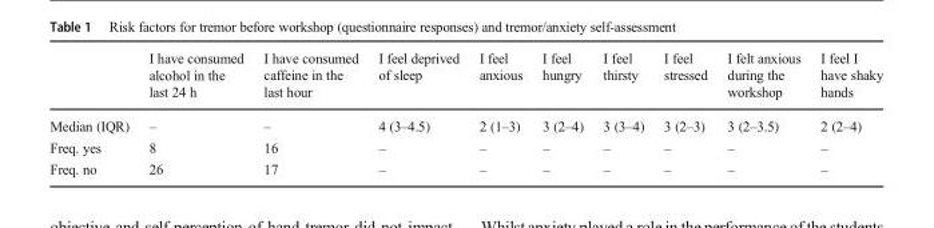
<table><thead><tr><td></td><td>I have consumed alcohol in the last 24 h</td><td>I have consumed caffeine in the last hour</td><td>I feel deprived of sleep</td><td>I feel anxious</td><td>I feel hungry</td><td>I feel thirsty</td><td>I feel stressed</td><td>I felt anxious during the workshop</td><td>I feel I have shaky hands</td></tr></thead><tbody><tr><td>Median (IQR)</td><td>–</td><td>–</td><td>4 (3–4.5)</td><td>2 (1–3)</td><td>3 (2–4)</td><td>3 (3–4)</td><td>3 (2–3)</td><td>3 (2–3.5)</td><td>2 (2–4)</td></tr><tr><td>Freq. yes</td><td>8</td><td>16</td><td>–</td><td>–</td><td>–</td><td>–</td><td>–</td><td>–</td><td>–</td></tr><tr><td>Freq. no</td><td>26</td><td>17</td><td>–</td><td>–</td><td>–</td><td>–</td><td>–</td><td>–</td><td>–</td></tr></tbody></table>